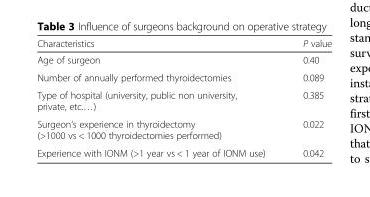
<table><thead><tr><td>Characteristics</td><td>P value</td></tr></thead><tbody><tr><td>Age of surgeon</td><td>0.40</td></tr><tr><td>Number of annually performed thyroidectomies</td><td>0.089</td></tr><tr><td>Type of hospital (university, public non university, private, etc.…)</td><td>0.385</td></tr><tr><td>Surgeon’s experience in thyroidectomy (&gt;1000 vs &lt; 1000 thyroidectomies performed)</td><td>0.022</td></tr><tr><td>Experience with IONM (&gt;1 year vs &lt; 1 year of IONM use)</td><td>0.042</td></tr></tbody></table>